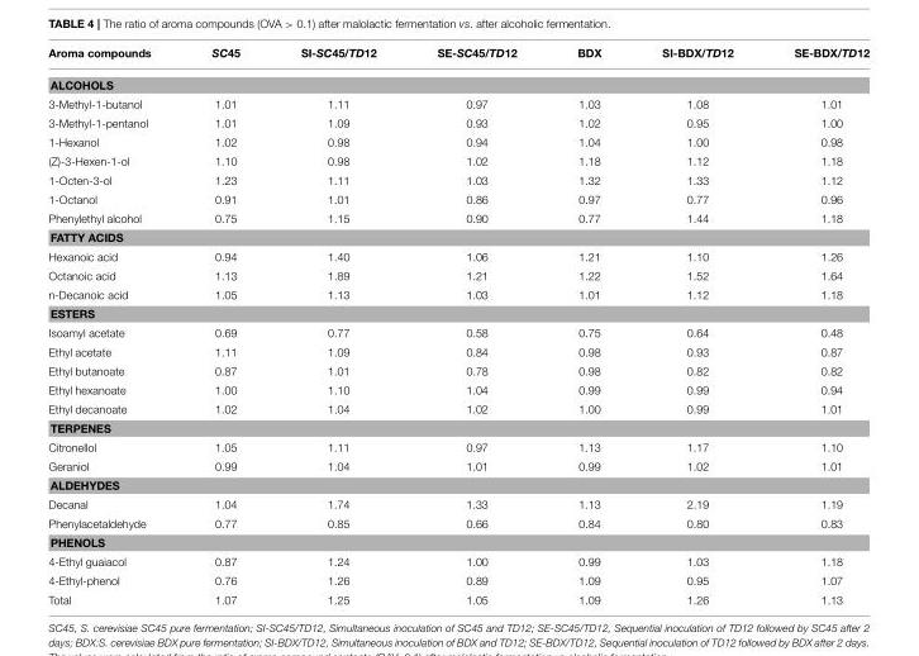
<table><thead><tr><td>Aroma compounds</td><td>SC45</td><td>SI-SC45/TD12</td><td>SE-SC45/TD12</td><td>BDX</td><td>SI-BDX/TD12</td><td>SE-BDX/TD12</td></tr></thead><tbody><tr><td colspan="7">ALCOHOLS</td></tr><tr><td>3-Methyl-1-butanol</td><td>1.01</td><td>1.11</td><td>0.97</td><td>1.03</td><td>1.08</td><td>1.01</td></tr><tr><td>3-Methyl-1-pentanol</td><td>1.01</td><td>1.09</td><td>0.93</td><td>1.02</td><td>0.95</td><td>1.00</td></tr><tr><td>1-Hexanol</td><td>1.02</td><td>0.98</td><td>0.94</td><td>1.04</td><td>1.00</td><td>0.98</td></tr><tr><td>(Z)-3-Hexen-1-ol</td><td>1.10</td><td>0.98</td><td>1.02</td><td>1.18</td><td>1.12</td><td>1.18</td></tr><tr><td>1-Octen-3-ol</td><td>1.23</td><td>1.11</td><td>1.03</td><td>1.32</td><td>1.33</td><td>1.12</td></tr><tr><td>1-Octanol</td><td>0.91</td><td>1.01</td><td>0.86</td><td>0.97</td><td>0.77</td><td>0.96</td></tr><tr><td>Phenylethyl alcohol</td><td>0.75</td><td>1.15</td><td>0.90</td><td>0.77</td><td>1.44</td><td>1.18</td></tr><tr><td colspan="7">FATTY ACIDS</td></tr><tr><td>Hexanoic acid</td><td>0.94</td><td>1.40</td><td>1.06</td><td>1.21</td><td>1.10</td><td>1.26</td></tr><tr><td>Octanoic acid</td><td>1.13</td><td>1.89</td><td>1.21</td><td>1.22</td><td>1.52</td><td>1.64</td></tr><tr><td>n-Decanoic acid</td><td>1.05</td><td>1.13</td><td>1.03</td><td>1.01</td><td>1.12</td><td>1.18</td></tr><tr><td colspan="7">ESTERS</td></tr><tr><td>Isoamyl acetate</td><td>0.69</td><td>0.77</td><td>0.58</td><td>0.75</td><td>0.64</td><td>0.48</td></tr><tr><td>Ethyl acetate</td><td>1.11</td><td>1.09</td><td>0.84</td><td>0.98</td><td>0.93</td><td>0.87</td></tr><tr><td>Ethyl butanoate</td><td>0.87</td><td>1.01</td><td>0.78</td><td>0.98</td><td>0.82</td><td>0.82</td></tr><tr><td>Ethyl hexanoate</td><td>1.00</td><td>1.10</td><td>1.04</td><td>0.99</td><td>0.99</td><td>0.94</td></tr><tr><td>Ethyl decanoate</td><td>1.02</td><td>1.04</td><td>1.02</td><td>1.00</td><td>0.99</td><td>1.01</td></tr><tr><td colspan="7">TERPENES</td></tr><tr><td>Citronellol</td><td>1.05</td><td>1.11</td><td>0.97</td><td>1.13</td><td>1.17</td><td>1.10</td></tr><tr><td>Geraniol</td><td>0.99</td><td>1.04</td><td>1.01</td><td>0.99</td><td>1.02</td><td>1.01</td></tr><tr><td colspan="7">ALDEHYDES</td></tr><tr><td>Decanal</td><td>1.04</td><td>1.74</td><td>1.33</td><td>1.13</td><td>2.19</td><td>1.19</td></tr><tr><td>Phenylacetaldehyde</td><td>0.77</td><td>0.85</td><td>0.66</td><td>0.84</td><td>0.80</td><td>0.83</td></tr><tr><td colspan="7">PHENOLS</td></tr><tr><td>4-Ethyl guaiacol</td><td>0.87</td><td>1.24</td><td>1.00</td><td>0.99</td><td>1.03</td><td>1.18</td></tr><tr><td>4-Ethyl-phenol</td><td>0.76</td><td>1.26</td><td>0.89</td><td>1.09</td><td>0.95</td><td>1.07</td></tr><tr><td>Total</td><td>1.07</td><td>1.25</td><td>1.05</td><td>1.09</td><td>1.26</td><td>1.13</td></tr></tbody></table>